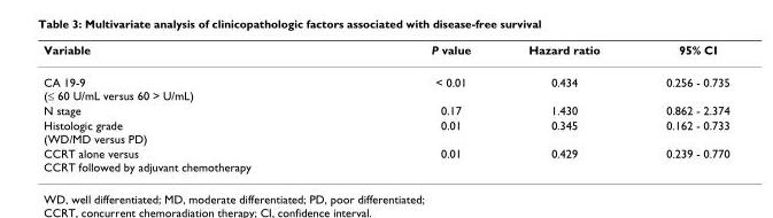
<table><thead><tr><td>Variable</td><td>P value</td><td>Hazard ratio</td><td>95% CI</td></tr></thead><tbody><tr><td>CA 19-9 (≤ 60 U/mL versus 60 &gt; U/mL)</td><td>&lt; 0.01</td><td>0.434</td><td>0.256 - 0.735</td></tr><tr><td>N stage</td><td>0.17</td><td>1.430</td><td>0.862 - 2.374</td></tr><tr><td>Histologic grade (WD/MD versus PD)</td><td>0.01</td><td>0.345</td><td>0.162 - 0.733</td></tr><tr><td>CCRT alone versus CCRT followed by adjuvant chemotherapy</td><td>0.01</td><td>0.429</td><td>0.239 - 0.770</td></tr></tbody></table>